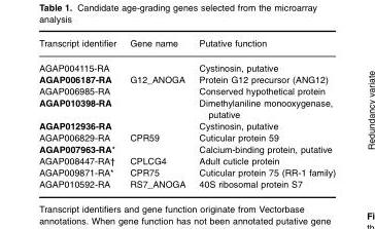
<table><thead><tr><td>Transcript identifier</td><td>Gene name</td><td>Putative function</td></tr></thead><tbody><tr><td>AGAP004115-RA</td><td></td><td>Cystinosin, putative</td></tr><tr><td>AGAP006187-RA</td><td>G12_ANOGA</td><td>Protein G12 precursor (ANG12)</td></tr><tr><td>AGAP006985-RA</td><td></td><td>Conserved hypothetical protein</td></tr><tr><td>AGAP010398-RA</td><td></td><td>Dimethylaniline monooxygenase, putative</td></tr><tr><td>AGAP012936-RA</td><td></td><td>Cystinosin, putative</td></tr><tr><td>AGAP006829-RA</td><td>CPR59</td><td>Cuticular protein 59</td></tr><tr><td>AGAP007963-RA*</td><td></td><td>Calcium-binding protein, putative</td></tr><tr><td>AGAP008447-RA†</td><td>CPLCG4</td><td>Adult cuticle protein</td></tr><tr><td>AGAP009871-RA*</td><td>CPR75</td><td>Cuticular protein 75 (RR-1 family)</td></tr><tr><td>AGAP010592-RA</td><td>RS7_ANOGA</td><td>40S ribosomal protein S7</td></tr></tbody></table>